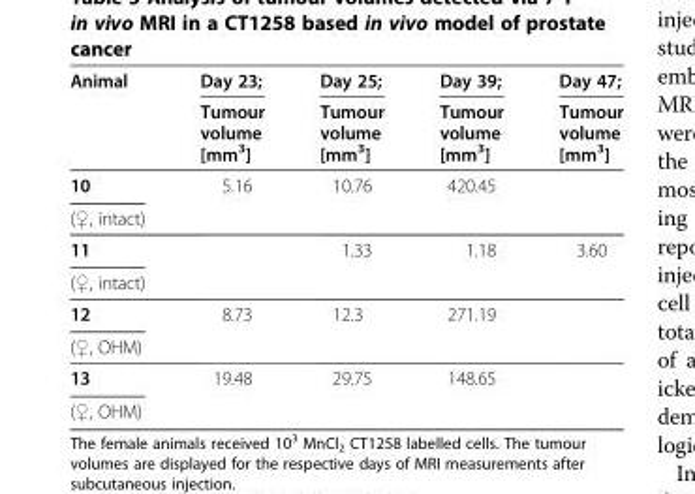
<table><thead><tr><td rowspan="2">Animal</td><td rowspan="2">Day 23; Tumour volume [mm<sup>3</sup>]</td><td rowspan="2">Day 25; Tumour volume [mm<sup>3</sup>]</td><td rowspan="2">Day 39; Tumour volume [mm<sup>3</sup>]</td><td rowspan="2">Day 47; Tumour volume [mm<sup>3</sup>]</td></tr><tr></tr></thead><tbody><tr><td>10</td><td>5.16</td><td>10.76</td><td>420.45</td><td></td></tr><tr><td colspan="5">(♀, intact)</td></tr><tr><td>11</td><td></td><td>1.33</td><td>1.18</td><td>3.60</td></tr><tr><td colspan="5">(♀, intact)</td></tr><tr><td>12</td><td>8.73</td><td>12.3</td><td>271.19</td><td></td></tr><tr><td colspan="5">(♀, OHM)</td></tr><tr><td>13</td><td>19.48</td><td>29.75</td><td>148.65</td><td></td></tr><tr><td>(♀, OHM)</td><td></td><td></td><td></td><td></td></tr></tbody></table>